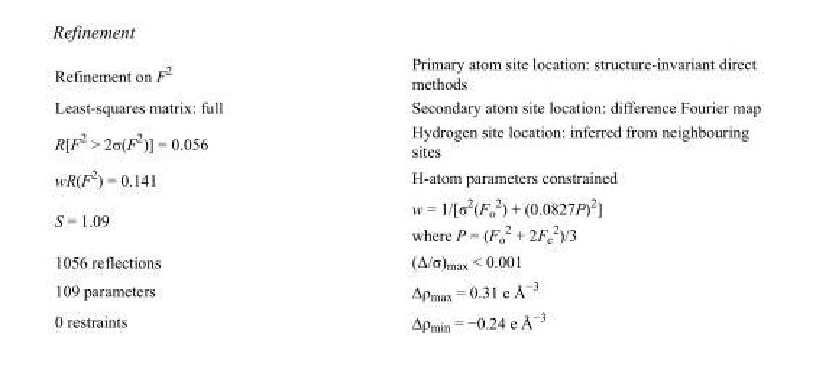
<table><tbody><tr><td>Refinement on F<sup>2</sup></td><td>Primary atom site location: structure-invariant direct methods</td></tr><tr><td>Least-squares matrix: full</td><td>Secondary atom site location: difference Fourier map</td></tr><tr><td>R[F<sup>2</sup> &gt; 2σ(F<sup>2</sup>)] = 0.056</td><td>Hydrogen site location: inferred from neighbouring sites</td></tr><tr><td>wR(F<sup>2</sup>) = 0.141</td><td>H-atom parameters constrained</td></tr><tr><td>S = 1.09</td><td>w = 1/[σ<sup>2</sup>(F<sub>o</sub> <sup>2</sup>) + (0.0827P)<sup>2</sup>] where P = (F<sub>o</sub> <sup>2</sup> + 2F<sub>c</sub> <sup>2</sup>)/3</td></tr><tr><td>1056 reflections</td><td>(Δ/σ)<sub>max</sub> &lt; 0.001</td></tr><tr><td>109 parameters</td><td>Δρ<sub>max</sub> = 0.31 e Å<sup>−3</sup></td></tr><tr><td>0 restraints</td><td>Δρ<sub>min</sub> = −0.24 e Å<sup>−3</sup></td></tr></tbody></table>